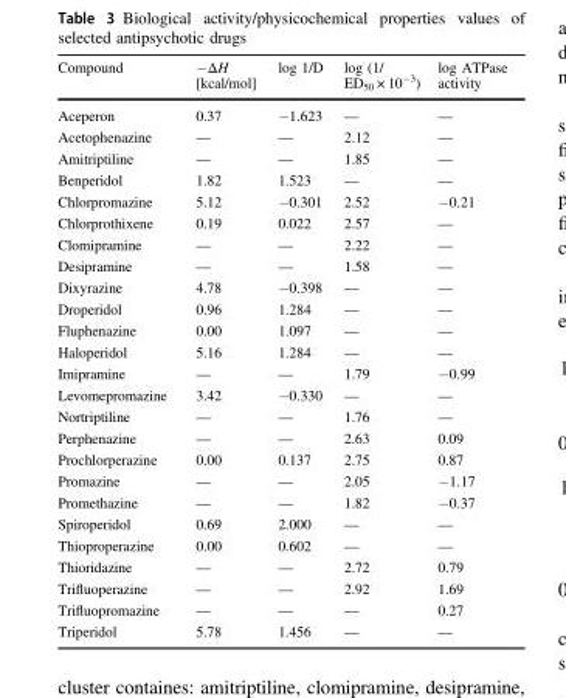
<table><thead><tr><td>Compound</td><td>−ΔH [kcal/mol]</td><td>log 1/D</td><td>log (1/ ED<sub>50</sub> × 10<sup>−3</sup>)</td><td>log ATPase activity</td></tr></thead><tbody><tr><td>Aceperon</td><td>0.37</td><td>−1.623</td><td>—</td><td>—</td></tr><tr><td>Acetophenazine</td><td>—</td><td>—</td><td>2.12</td><td>—</td></tr><tr><td>Amitriptiline</td><td>—</td><td>—</td><td>1.85</td><td>—</td></tr><tr><td>Benperidol</td><td>1.82</td><td>1.523</td><td>—</td><td>—</td></tr><tr><td>Chlorpromazine</td><td>5.12</td><td>−0.301</td><td>2.52</td><td>−0.21</td></tr><tr><td>Chlorprothixene</td><td>0.19</td><td>0.022</td><td>2.57</td><td>—</td></tr><tr><td>Clomipramine</td><td>—</td><td>—</td><td>2.22</td><td>—</td></tr><tr><td>Desipramine</td><td>—</td><td>—</td><td>1.58</td><td>—</td></tr><tr><td>Dixyrazine</td><td>4.78</td><td>−0.398</td><td>—</td><td>—</td></tr><tr><td>Droperidol</td><td>0.96</td><td>1.284</td><td>—</td><td>—</td></tr><tr><td>Fluphenazine</td><td>0.00</td><td>1.097</td><td>—</td><td>—</td></tr><tr><td>Haloperidol</td><td>5.16</td><td>1.284</td><td>—</td><td>—</td></tr><tr><td>Imipramine</td><td>—</td><td>—</td><td>1.79</td><td>−0.99</td></tr><tr><td>Levomepromazine</td><td>3.42</td><td>−0.330</td><td>—</td><td>—</td></tr><tr><td>Nortriptiline</td><td>—</td><td>—</td><td>1.76</td><td>—</td></tr><tr><td>Perphenazine</td><td>—</td><td>—</td><td>2.63</td><td>0.09</td></tr><tr><td>Prochlorperazine</td><td>0.00</td><td>0.137</td><td>2.75</td><td>0.87</td></tr><tr><td>Promazine</td><td>—</td><td>—</td><td>2.05</td><td>−1.17</td></tr><tr><td>Promethazine</td><td>—</td><td>—</td><td>1.82</td><td>−0.37</td></tr><tr><td>Spiroperidol</td><td>0.69</td><td>2.000</td><td>—</td><td>—</td></tr><tr><td>Thioproperazine</td><td>0.00</td><td>0.602</td><td>—</td><td>—</td></tr><tr><td>Thioridazine</td><td>—</td><td>—</td><td>2.72</td><td>0.79</td></tr><tr><td>Trifluoperazine</td><td>—</td><td>—</td><td>2.92</td><td>1.69</td></tr><tr><td>Trifluopromazine</td><td>—</td><td>—</td><td>—</td><td>0.27</td></tr><tr><td>Triperidol</td><td>5.78</td><td>1.456</td><td>—</td><td>—</td></tr></tbody></table>